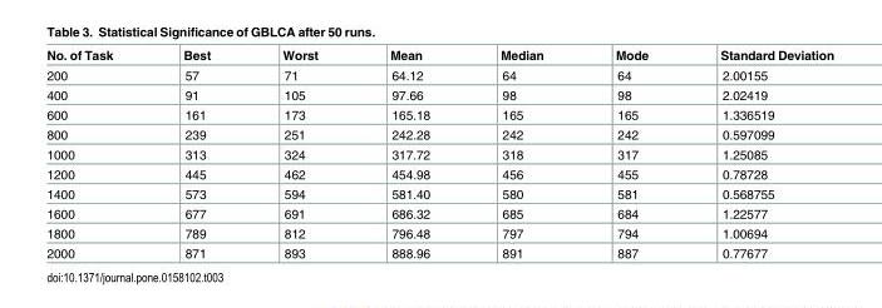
<table><thead><tr><td>No. of Task</td><td>Best</td><td>Worst</td><td>Mean</td><td>Median</td><td>Mode</td><td>Standard Deviation</td></tr></thead><tbody><tr><td>200</td><td>57</td><td>71</td><td>64.12</td><td>64</td><td>64</td><td>2.00155</td></tr><tr><td>400</td><td>91</td><td>105</td><td>97.66</td><td>98</td><td>98</td><td>2.02419</td></tr><tr><td>600</td><td>161</td><td>173</td><td>165.18</td><td>165</td><td>165</td><td>1.336519</td></tr><tr><td>800</td><td>239</td><td>251</td><td>242.28</td><td>242</td><td>242</td><td>0.597099</td></tr><tr><td>1000</td><td>313</td><td>324</td><td>317.72</td><td>318</td><td>317</td><td>1.25085</td></tr><tr><td>1200</td><td>445</td><td>462</td><td>454.98</td><td>456</td><td>455</td><td>0.78728</td></tr><tr><td>1400</td><td>573</td><td>594</td><td>581.40</td><td>580</td><td>581</td><td>0.568755</td></tr><tr><td>1600</td><td>677</td><td>691</td><td>686.32</td><td>685</td><td>684</td><td>1.22577</td></tr><tr><td>1800</td><td>789</td><td>812</td><td>796.48</td><td>797</td><td>794</td><td>1.00694</td></tr><tr><td>2000</td><td>871</td><td>893</td><td>888.96</td><td>891</td><td>887</td><td>0.77677</td></tr></tbody></table>